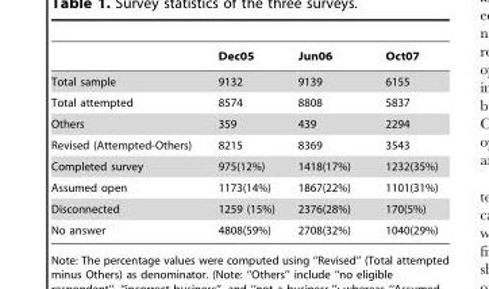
<table><thead><tr><td></td><td>Dec05</td><td>Jun06</td><td>Oct07</td></tr></thead><tbody><tr><td>Total sample</td><td>9132</td><td>9139</td><td>6155</td></tr><tr><td>Total attempted</td><td>8574</td><td>8808</td><td>5837</td></tr><tr><td>Others</td><td>359</td><td>439</td><td>2294</td></tr><tr><td>Revised (Attempted-Others)</td><td>8215</td><td>8369</td><td>3543</td></tr><tr><td>Completed survey</td><td>975(12%)</td><td>1418(17%)</td><td>1232(35%)</td></tr><tr><td>Assumed open</td><td>1173(14%)</td><td>1867(22%)</td><td>1101(31%)</td></tr><tr><td>Disconnected</td><td>1259 (15%)</td><td>2376(28%)</td><td>170(5%)</td></tr><tr><td>No answer</td><td>4808(59%)</td><td>2708(32%)</td><td>1040(29%)</td></tr></tbody></table>